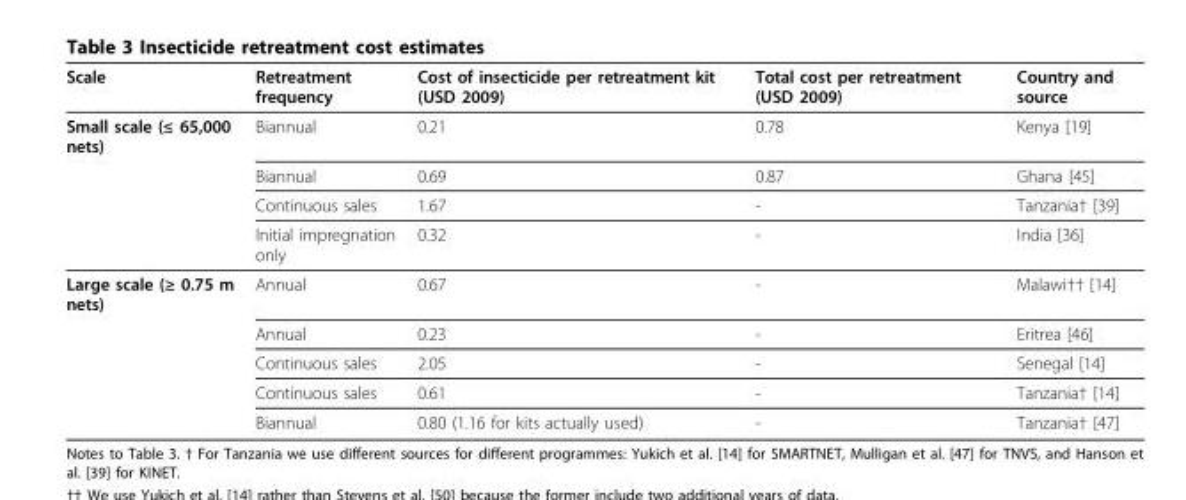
<table><thead><tr><td>Scale</td><td>Retreatment frequency</td><td>Cost of insecticide per retreatment kit (USD 2009)</td><td>Total cost per retreatment (USD 2009)</td><td>Country and source</td></tr></thead><tbody><tr><td rowspan="4">Small scale (≤ 65,000 nets)</td><td>Biannual</td><td>0.21</td><td>0.78</td><td>Kenya [19]</td></tr><tr><td>Biannual</td><td>0.69</td><td>0.87</td><td>Ghana [45]</td></tr><tr><td>Continuous sales</td><td>1.67</td><td>-</td><td>Tanzania† [39]</td></tr><tr><td>Initial impregnation only</td><td>0.32</td><td>-</td><td>India [36]</td></tr><tr><td rowspan="5">Large scale (≥ 0.75 m nets)</td><td>Annual</td><td>0.67</td><td>-</td><td>Malawi†† [14]</td></tr><tr><td>Annual</td><td>0.23</td><td>-</td><td>Eritrea [46]</td></tr><tr><td>Continuous sales</td><td>2.05</td><td>-</td><td>Senegal [14]</td></tr><tr><td>Continuous sales</td><td>0.61</td><td>-</td><td>Tanzania† [14]</td></tr><tr><td>Biannual</td><td>0.80 (1.16 for kits actually used)</td><td>-</td><td>Tanzania† [47]</td></tr></tbody></table>